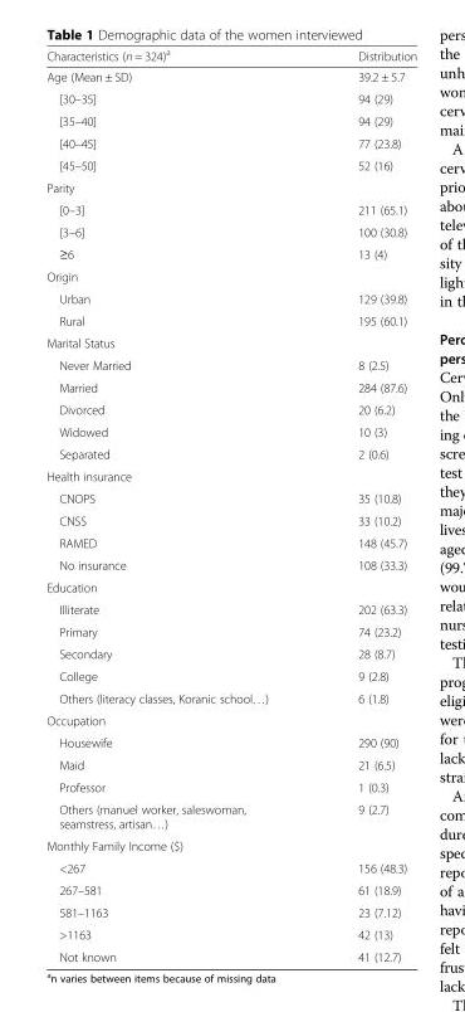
<table><thead><tr><td>Characteristics (n = 324)<sup>a</sup></td><td>Distribution</td></tr></thead><tbody><tr><td>Age (Mean ± SD)</td><td>39.2 ± 5.7</td></tr><tr><td>[30–35]</td><td>94 (29)</td></tr><tr><td>[35–40]</td><td>94 (29)</td></tr><tr><td>[40–45]</td><td>77 (23.8)</td></tr><tr><td>[45–50]</td><td>52 (16)</td></tr><tr><td colspan="2">Parity</td></tr><tr><td>[0–3]</td><td>211 (65.1)</td></tr><tr><td>[3–6]</td><td>100 (30.8)</td></tr><tr><td>≥6</td><td>13 (4)</td></tr><tr><td colspan="2">Origin</td></tr><tr><td>Urban</td><td>129 (39.8)</td></tr><tr><td>Rural</td><td>195 (60.1)</td></tr><tr><td colspan="2">Marital Status</td></tr><tr><td>Never Married</td><td>8 (2.5)</td></tr><tr><td>Married</td><td>284 (87.6)</td></tr><tr><td>Divorced</td><td>20 (6.2)</td></tr><tr><td>Widowed</td><td>10 (3)</td></tr><tr><td>Separated</td><td>2 (0.6)</td></tr><tr><td colspan="2">Health insurance</td></tr><tr><td>CNOPS</td><td>35 (10.8)</td></tr><tr><td>CNSS</td><td>33 (10.2)</td></tr><tr><td>RAMED</td><td>148 (45.7)</td></tr><tr><td>No insurance</td><td>108 (33.3)</td></tr><tr><td colspan="2">Education</td></tr><tr><td>Illiterate</td><td>202 (63.3)</td></tr><tr><td>Primary</td><td>74 (23.2)</td></tr><tr><td>Secondary</td><td>28 (8.7)</td></tr><tr><td>College</td><td>9 (2.8)</td></tr><tr><td>Others (literacy classes, Koranic school…)</td><td>6 (1.8)</td></tr><tr><td colspan="2">Occupation</td></tr><tr><td>Housewife</td><td>290 (90)</td></tr><tr><td>Maid</td><td>21 (6.5)</td></tr><tr><td>Professor</td><td>1 (0.3)</td></tr><tr><td>Others (manuel worker, saleswoman, seamstress, artisan…)</td><td>9 (2.7)</td></tr><tr><td colspan="2">Monthly Family Income ($)</td></tr><tr><td>&lt;267</td><td>156 (48.3)</td></tr><tr><td>267–581</td><td>61 (18.9)</td></tr><tr><td>581–1163</td><td>23 (7.12)</td></tr><tr><td>&gt;1163</td><td>42 (13)</td></tr><tr><td>Not known</td><td>41 (12.7)</td></tr></tbody></table>